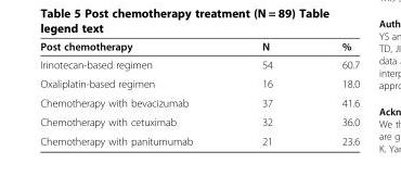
<table><thead><tr><td>Post chemotherapy</td><td>N</td><td>%</td></tr></thead><tbody><tr><td>Irinotecan-based regimen</td><td>54</td><td>60.7</td></tr><tr><td>Oxaliplatin-based regimen</td><td>16</td><td>18.0</td></tr><tr><td>Chemotherapy with bevacizumab</td><td>37</td><td>41.6</td></tr><tr><td>Chemotherapy with cetuximab</td><td>32</td><td>36.0</td></tr><tr><td>Chemotherapy with panitumumab</td><td>21</td><td>23.6</td></tr></tbody></table>